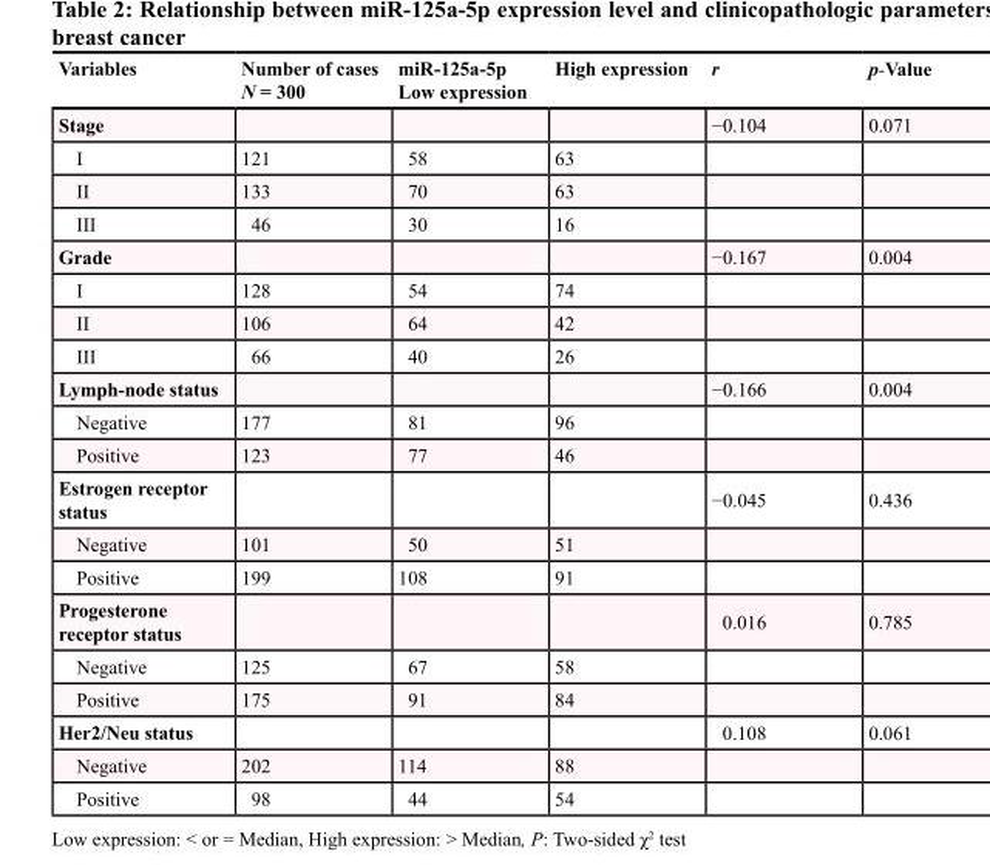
<table><thead><tr><td>Variables</td><td>Number of cases N = 300</td><td>miR-125a-5p Low expression</td><td>High expression</td><td>r</td><td>p-Value</td></tr></thead><tbody><tr><td>Stage</td><td></td><td></td><td></td><td>−0.104</td><td>0.071</td></tr><tr><td>I</td><td>121</td><td>58</td><td>63</td><td></td><td></td></tr><tr><td>II</td><td>133</td><td>70</td><td>63</td><td></td><td></td></tr><tr><td>III</td><td>46</td><td>30</td><td>16</td><td></td><td></td></tr><tr><td>Grade</td><td></td><td></td><td></td><td>−0.167</td><td>0.004</td></tr><tr><td>I</td><td>128</td><td>54</td><td>74</td><td></td><td></td></tr><tr><td>II</td><td>106</td><td>64</td><td>42</td><td></td><td></td></tr><tr><td>III</td><td>66</td><td>40</td><td>26</td><td></td><td></td></tr><tr><td>Lymph-node status</td><td></td><td></td><td></td><td>−0.166</td><td>0.004</td></tr><tr><td>Negative</td><td>177</td><td>81</td><td>96</td><td></td><td></td></tr><tr><td>Positive</td><td>123</td><td>77</td><td>46</td><td></td><td></td></tr><tr><td>Estrogen receptor status</td><td></td><td></td><td></td><td>−0.045</td><td>0.436</td></tr><tr><td>Negative</td><td>101</td><td>50</td><td>51</td><td></td><td></td></tr><tr><td>Positive</td><td>199</td><td>108</td><td>91</td><td></td><td></td></tr><tr><td>Progesterone receptor status</td><td></td><td></td><td></td><td>0.016</td><td>0.785</td></tr><tr><td>Negative</td><td>125</td><td>67</td><td>58</td><td></td><td></td></tr><tr><td>Positive</td><td>175</td><td>91</td><td>84</td><td></td><td></td></tr><tr><td>Her2/Neu status</td><td></td><td></td><td></td><td>0.108</td><td>0.061</td></tr><tr><td>Negative</td><td>202</td><td>114</td><td>88</td><td></td><td></td></tr><tr><td>Positive</td><td>98</td><td>44</td><td>54</td><td></td><td></td></tr></tbody></table>